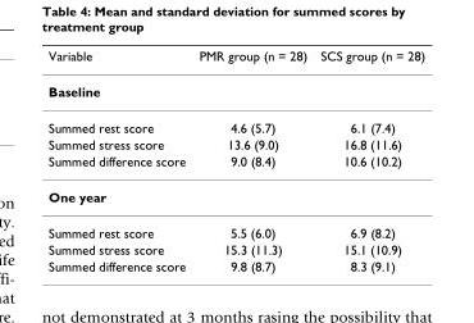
<table><thead><tr><td>Variable</td><td>PMR group (n = 28)</td><td>SCS group (n = 28)</td></tr></thead><tbody><tr><td colspan="3">Baseline</td></tr><tr><td>Summed rest score</td><td>4.6 (5.7)</td><td>6.1 (7.4)</td></tr><tr><td>Summed stress score</td><td>13.6 (9.0)</td><td>16.8 (11.6)</td></tr><tr><td>Summed difference score</td><td>9.0 (8.4)</td><td>10.6 (10.2)</td></tr><tr><td colspan="3">One year</td></tr><tr><td>Summed rest score</td><td>5.5 (6.0)</td><td>6.9 (8.2)</td></tr><tr><td>Summed stress score</td><td>15.3 (11.3)</td><td>15.1 (10.9)</td></tr><tr><td>Summed difference score</td><td>9.8 (8.7)</td><td>8.3 (9.1)</td></tr></tbody></table>